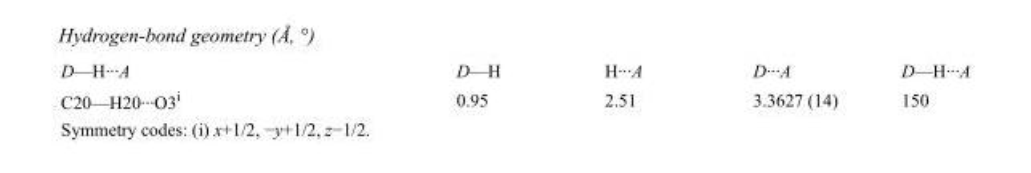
<table><tbody><tr><td>D—H···A</td><td>D—H</td><td>H···A</td><td>D···A</td><td>D—H···A</td></tr><tr><td>C20—H20···O3<sup>i</sup></td><td>0.95</td><td>2.51</td><td>3.3627 (14)</td><td>150</td></tr></tbody></table>